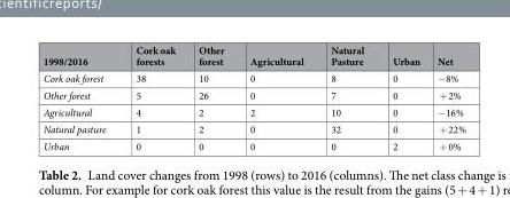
<table><thead><tr><td>1998/2016</td><td>Cork oak forests</td><td>Other forest</td><td>Agricultural</td><td>Natural Pasture</td><td>Urban</td><td>Net</td></tr></thead><tbody><tr><td>Cork oak forest</td><td>38</td><td>10</td><td>0</td><td>8</td><td>0</td><td>−8%</td></tr><tr><td>Other forest</td><td>5</td><td>26</td><td>0</td><td>7</td><td>0</td><td>+ 2%</td></tr><tr><td>Agricultural</td><td>4</td><td>2</td><td>2</td><td>10</td><td>0</td><td>−16%</td></tr><tr><td>Natural pasture</td><td>1</td><td>2</td><td>0</td><td>32</td><td>0</td><td>+ 22%</td></tr><tr><td>Urban</td><td>0</td><td>0</td><td>0</td><td>0</td><td>2</td><td>+ 0%</td></tr></tbody></table>